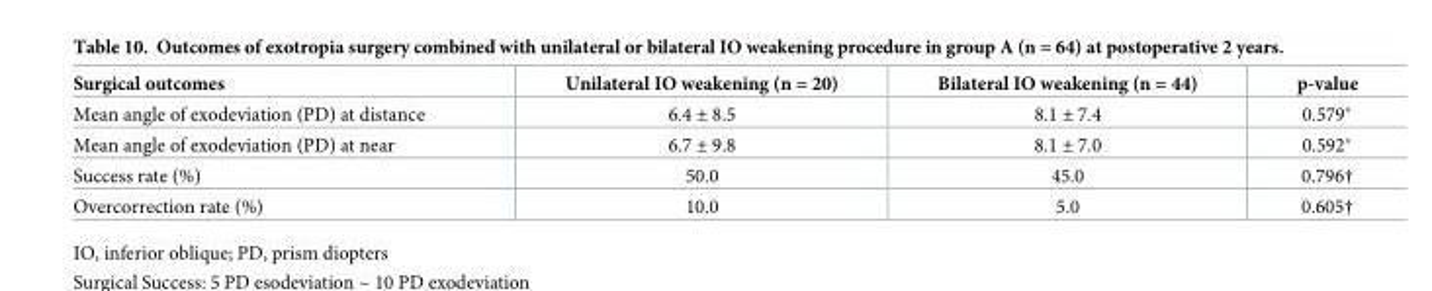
<table><thead><tr><td>Surgical outcomes</td><td>Unilateral IO weakening (n = 20)</td><td>Bilateral IO weakening (n = 44)</td><td>p-value</td></tr></thead><tbody><tr><td>Mean angle of exodeviation (PD) at distance</td><td>6.4 ± 8.5</td><td>8.1 ± 7.4</td><td>0.579*</td></tr><tr><td>Mean angle of exodeviation (PD) at near</td><td>6.7 ± 9.8</td><td>8.1 ± 7.0</td><td>0.592*</td></tr><tr><td>Success rate (%)</td><td>50.0</td><td>45.0</td><td>0.796†</td></tr><tr><td>Overcorrection rate (%)</td><td>10.0</td><td>5.0</td><td>0.605†</td></tr></tbody></table>